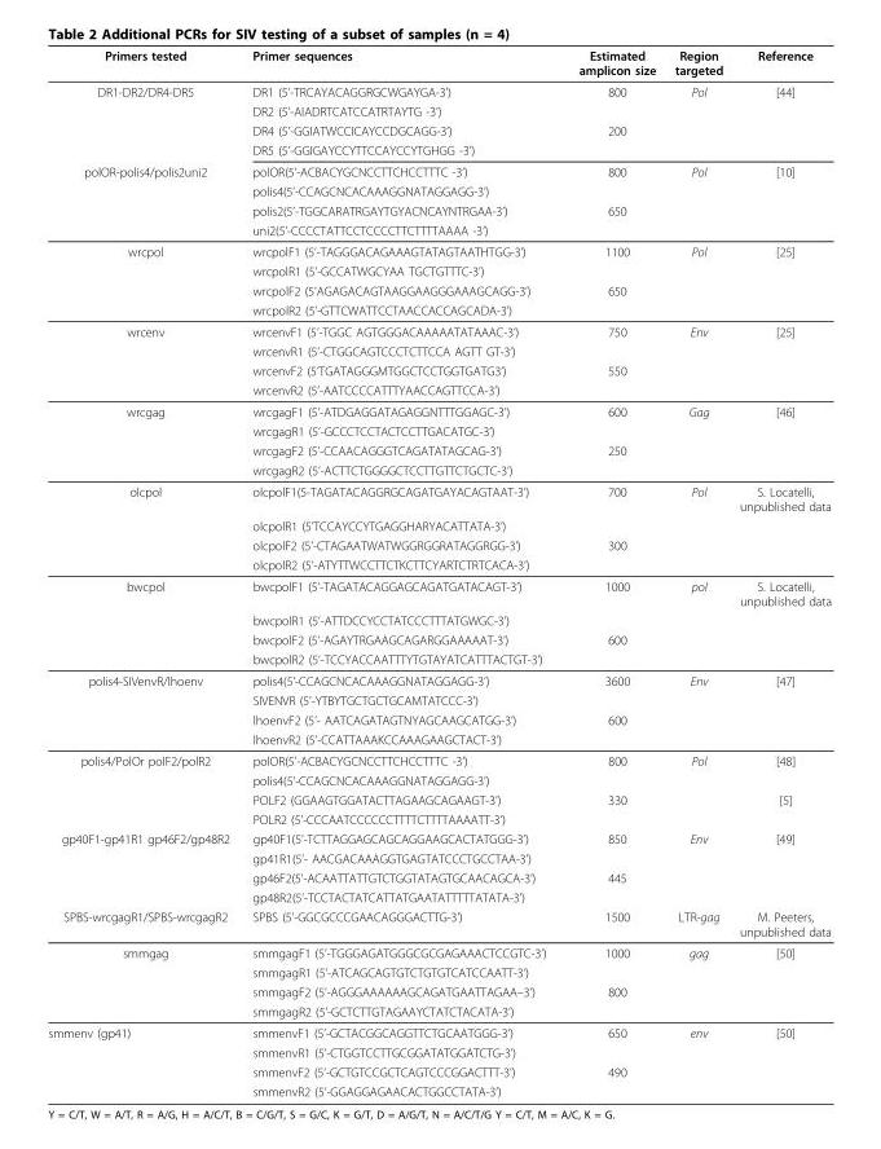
<table><thead><tr><td>Primers tested</td><td>Primer sequences</td><td>Estimated amplicon size</td><td>Region targeted</td><td>Reference</td></tr></thead><tbody><tr><td rowspan="4">DR1-DR2/DR4-DR5</td><td>DR1 (5’-TRCAYACAGGRGCWGAYGA-3’)</td><td>800</td><td>Pol</td><td>[44]</td></tr><tr><td>DR2 (5’-AIADRTCATCCATRTAYTG -3’)</td><td></td><td></td><td></td></tr><tr><td>DR4 (5’-GGIATWCCICAYCCDGCAGG-3’)</td><td>200</td><td></td><td></td></tr><tr><td>DR5 (5’-GGIGAYCCYTTCCAYCCYTGHGG -3’)</td><td></td><td></td><td></td></tr><tr><td rowspan="4">polOR-polis4/polis2uni2</td><td>polOR(5’-ACBACYGCNCCTTCHCCTTTC -3’)</td><td>800</td><td>Pol</td><td>[10]</td></tr><tr><td>polis4(5’-CCAGCNCACAAAGGNATAGGAGG-3’)</td><td></td><td></td><td></td></tr><tr><td>polis2(5’-TGGCARATRGAYTGYACNCAYNTRGAA-3’)</td><td>650</td><td></td><td></td></tr><tr><td>uni2(5’-CCCCTATTCCTCCCCTTCTTTTAAAA -3’)</td><td></td><td></td><td></td></tr><tr><td rowspan="4">wrcpol</td><td>wrcpolF1 (5’-TAGGGACAGAAAGTATAGTAATHTGG-3’)</td><td>1100</td><td>Pol</td><td>[25]</td></tr><tr><td>wrcpolR1 (5’-GCCATWGCYAA TGCTGTTTC-3’)</td><td></td><td></td><td></td></tr><tr><td>wrcpolF2 (5’AGAGACAGTAAGGAAGGGAAAGCAGG-3’)</td><td>650</td><td></td><td></td></tr><tr><td>wrcpolR2 (5’-GTTCWATTCCTAACCACCAGCADA-3’)</td><td></td><td></td><td></td></tr><tr><td rowspan="4">wrcenv</td><td>wrcenvF1 (5’-TGGC AGTGGGACAAAAATATAAAC-3’)</td><td>750</td><td>Env</td><td>[25]</td></tr><tr><td>wrcenvR1 (5’-CTGGCAGTCCCTCTTCCA AGTT GT-3’)</td><td></td><td></td><td></td></tr><tr><td>wrcenvF2 (5’TGATAGGGMTGGCTCCTGGTGATG3’)</td><td>550</td><td></td><td></td></tr><tr><td>wrcenvR2 (5’-AATCCCCATTTYAACCAGTTCCA-3’)</td><td></td><td></td><td></td></tr><tr><td rowspan="4">wrcgag</td><td>wrcgagF1 (5’-ATDGAGGATAGAGGNTTTGGAGC-3’)</td><td>600</td><td>Gag</td><td>[46]</td></tr><tr><td>wrcgagR1 (5’-GCCCTCCTACTCCTTGACATGC-3’)</td><td></td><td></td><td></td></tr><tr><td>wrcgagF2 (5’-CCAACAGGGTCAGATATAGCAG-3’)</td><td>250</td><td></td><td></td></tr><tr><td>wrcgagR2 (5’-ACTTCTGGGGCTCCTTGTTCTGCTC-3’)</td><td></td><td></td><td></td></tr><tr><td rowspan="4">olcpol</td><td>olcpolF1(5-TAGATACAGGRGCAGATGAYACAGTAAT-3’)</td><td>700</td><td>Pol</td><td>S. Locatelli, unpublished data</td></tr><tr><td>olcpolR1 (5’TCCAYCCYTGAGGHARYACATTATA-3’)</td><td></td><td></td><td></td></tr><tr><td>olcpolF2 (5’-CTAGAATWATWGGRGGRATAGGRGG-3’)</td><td>300</td><td></td><td></td></tr><tr><td>olcpolR2 (5’-ATYTTWCCTTCTKCTTCYARTCTRTCACA-3’)</td><td></td><td></td><td></td></tr><tr><td rowspan="4">bwcpol</td><td>bwcpolF1 (5’-TAGATACAGGAGCAGATGATACAGT-3’)</td><td>1000</td><td>pol</td><td>S. Locatelli, unpublished data</td></tr><tr><td>bwcpolR1 (5’-ATTDCCYCCTATCCCTTTATGWGC-3’)</td><td></td><td></td><td></td></tr><tr><td>bwcpolF2 (5’-AGAYTRGAAGCAGARGGAAAAAT-3’)</td><td>600</td><td></td><td></td></tr><tr><td>bwcpolR2 (5’-TCCYACCAATTTYTGTAYATCATTTACTGT-3’)</td><td></td><td></td><td></td></tr><tr><td rowspan="4">polis4-SIVenvR/lhoenv</td><td>polis4(5’-CCAGCNCACAAAGGNATAGGAGG-3’)</td><td>3600</td><td>Env</td><td>[47]</td></tr><tr><td>SIVENVR (5’-YTBYTGCTGCTGCAMTATCCC-3’)</td><td></td><td></td><td></td></tr><tr><td>lhoenvF2 (5’- AATCAGATAGTNYAGCAAGCATGG-3’)</td><td>600</td><td></td><td></td></tr><tr><td>lhoenvR2 (5’-CCATTAAAKCCAAAGAAGCTACT-3’)</td><td></td><td></td><td></td></tr><tr><td rowspan="4">polis4/PolOr polF2/polR2</td><td>polOR(5’-ACBACYGCNCCTTCHCCTTTC -3’)</td><td>800</td><td>Pol</td><td>[48]</td></tr><tr><td>polis4(5’-CCAGCNCACAAAGGNATAGGAGG-3’)</td><td></td><td></td><td></td></tr><tr><td>POLF2 (GGAAGTGGATACTTAGAAGCAGAAGT-3’)</td><td>330</td><td></td><td>[5]</td></tr><tr><td>POLR2 (5’-CCCAATCCCCCCTTTTCTTTTAAAATT-3’)</td><td></td><td></td><td></td></tr><tr><td rowspan="4">gp40F1-gp41R1 gp46F2/gp48R2</td><td>gp40F1(5’-TCTTAGGAGCAGCAGGAAGCACTATGGG-3’)</td><td>850</td><td>Env</td><td>[49]</td></tr><tr><td>gp41R1(5’- AACGACAAAGGTGAGTATCCCTGCCTAA-3’)</td><td></td><td></td><td></td></tr><tr><td>gp46F2(5’-ACAATTATTGTCTGGTATAGTGCAACAGCA-3’)</td><td>445</td><td></td><td></td></tr><tr><td>gp48R2(5’-TCCTACTATCATTATGAATATTTTTATATA-3’)</td><td></td><td></td><td></td></tr><tr><td>SPBS-wrcgagR1/SPBS-wrcgagR2</td><td>SPBS (5’-GGCGCCCGAACAGGGACTTG-3’)</td><td>1500</td><td>LTR-gag</td><td>M. Peeters, unpublished data</td></tr><tr><td rowspan="4">smmgag</td><td>smmgagF1 (5’-TGGGAGATGGGCGCGAGAAACTCCGTC-3’)</td><td>1000</td><td>gag</td><td>[50]</td></tr><tr><td>smmgagR1 (5’-ATCAGCAGTGTCTGTGTCATCCAATT-3’)</td><td></td><td></td><td></td></tr><tr><td>smmgagF2 (5’-AGGGAAAAAAGCAGATGAATTAGAA–3’)</td><td>800</td><td></td><td></td></tr><tr><td>smmgagR2 (5’-GCTCTTGTAGAAYCTATCTACATA-3’)</td><td></td><td></td><td></td></tr><tr><td rowspan="4">smmenv (gp41)</td><td>smmenvF1 (5’-GCTACGGCAGGTTCTGCAATGGG-3’)</td><td>650</td><td>env</td><td>[50]</td></tr><tr><td>smmenvR1 (5’-CTGGTCCTTGCGGATATGGATCTG-3’)</td><td></td><td></td><td></td></tr><tr><td>smmenvF2 (5’-GCTGTCCGCTCAGTCCCGGACTTT-3’)</td><td>490</td><td></td><td></td></tr><tr><td>smmenvR2 (5’-GGAGGAGAACACTGGCCTATA-3’)</td><td></td><td></td><td></td></tr></tbody></table>